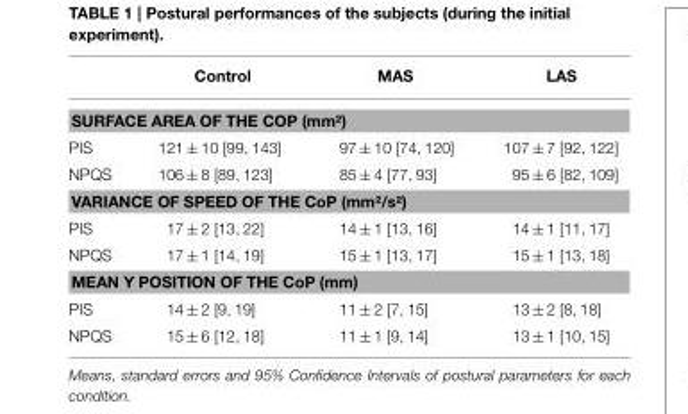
<table><thead><tr><td></td><td>Control</td><td>MAS</td><td>LAS</td></tr></thead><tbody><tr><td colspan="4">SURFACE AREA OF THE COP (mm²)</td></tr><tr><td>PIS</td><td>121 ± 10 [99, 143]</td><td>97 ± 10 [74, 120]</td><td>107 ± 7 [92, 122]</td></tr><tr><td>NPQS</td><td>106 ± 8 [89, 123]</td><td>85 ± 4 [77, 93]</td><td>95 ± 6 [82, 109]</td></tr><tr><td colspan="4">VARIANCE OF SPEED OF THE CoP (mm²/s²)</td></tr><tr><td>PIS</td><td>17 ± 2 [13, 22]</td><td>14 ± 1 [13, 16]</td><td>14 ± 1 [11, 17]</td></tr><tr><td>NPQS</td><td>17 ± 1 [14, 19]</td><td>15 ± 1 [13, 17]</td><td>15 ± 1 [13, 18]</td></tr><tr><td colspan="4">MEAN Y POSITION OF THE CoP (mm)</td></tr><tr><td>PIS</td><td>14 ± 2 [9, 19]</td><td>11 ± 2 [7, 15]</td><td>13 ± 2 [8, 18]</td></tr><tr><td>NPQS</td><td>15 ± 6 [12, 18]</td><td>11 ± 1 [9, 14]</td><td>13 ± 1 [10, 15]</td></tr></tbody></table>